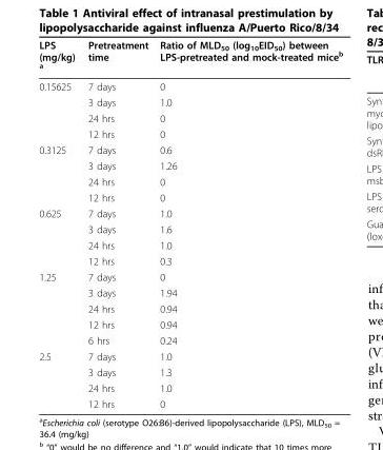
<table><thead><tr><td>LPS (mg/kg) <sup>a</sup></td><td>Pretreatment time</td><td>Ratio of MLD<sub>50</sub> (log<sub>10</sub>EID<sub>50</sub>) between LPS-pretreated and mock-treated mice<sup>b</sup></td></tr></thead><tbody><tr><td rowspan="4">0.15625</td><td>7 days</td><td>0</td></tr><tr><td>3 days</td><td>1.0</td></tr><tr><td>24 hrs</td><td>0</td></tr><tr><td>12 hrs</td><td>0</td></tr><tr><td rowspan="4">0.3125</td><td>7 days</td><td>0.6</td></tr><tr><td>3 days</td><td>1.26</td></tr><tr><td>24 hrs</td><td>0</td></tr><tr><td>12 hrs</td><td>0</td></tr><tr><td rowspan="4">0.625</td><td>7 days</td><td>1.0</td></tr><tr><td>3 days</td><td>1.6</td></tr><tr><td>24 hrs</td><td>1.0</td></tr><tr><td>12 hrs</td><td>0.3</td></tr><tr><td rowspan="5">1.25</td><td>7 days</td><td>0</td></tr><tr><td>3 days</td><td>1.94</td></tr><tr><td>24 hrs</td><td>0.94</td></tr><tr><td>12 hrs</td><td>0.94</td></tr><tr><td>6 hrs</td><td>0.24</td></tr><tr><td rowspan="4">2.5</td><td>7 days</td><td>1.0</td></tr><tr><td>3 days</td><td>1.3</td></tr><tr><td>24 hrs</td><td>1.0</td></tr><tr><td>12 hrs</td><td>0</td></tr></tbody></table>